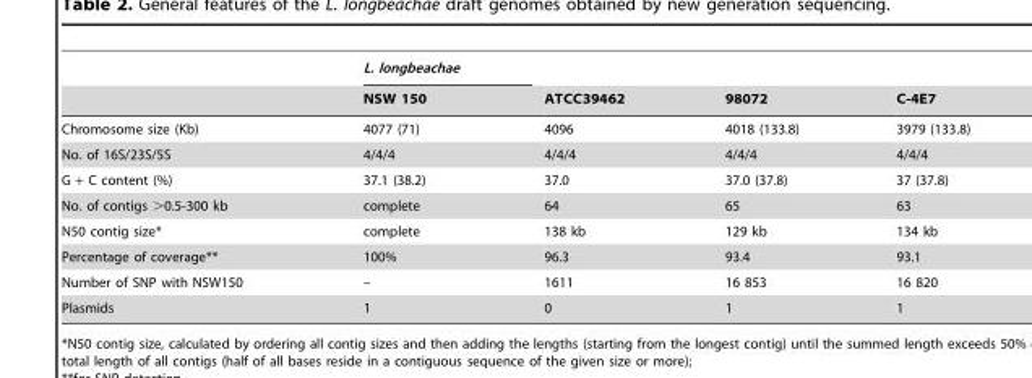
<table><thead><tr><td rowspan="2"></td><td rowspan="2">L. longbeachae NSW 150</td><td rowspan="2">ATCC39462</td><td rowspan="2">98072</td><td rowspan="2">C-4E7</td></tr><tr></tr></thead><tbody><tr><td>Chromosome size (Kb)</td><td>4077 (71)</td><td>4096</td><td>4018 (133.8)</td><td>3979 (133.8)</td></tr><tr><td>No. of 16S/23S/5S</td><td>4/4/4</td><td>4/4/4</td><td>4/4/4</td><td>4/4/4</td></tr><tr><td>G + C content (%)</td><td>37.1 (38.2)</td><td>37.0</td><td>37.0 (37.8)</td><td>37 (37.8)</td></tr><tr><td>No. of contigs &gt;0.5-300 kb</td><td>complete</td><td>64</td><td>65</td><td>63</td></tr><tr><td>N50 contig size*</td><td>complete</td><td>138 kb</td><td>129 kb</td><td>134 kb</td></tr><tr><td>Percentage of coverage**</td><td>100%</td><td>96.3</td><td>93.4</td><td>93.1</td></tr><tr><td>Number of SNP with NSW150</td><td>–</td><td>1611</td><td>16 853</td><td>16 820</td></tr><tr><td>Plasmids</td><td>1</td><td>0</td><td>1</td><td>1</td></tr></tbody></table>